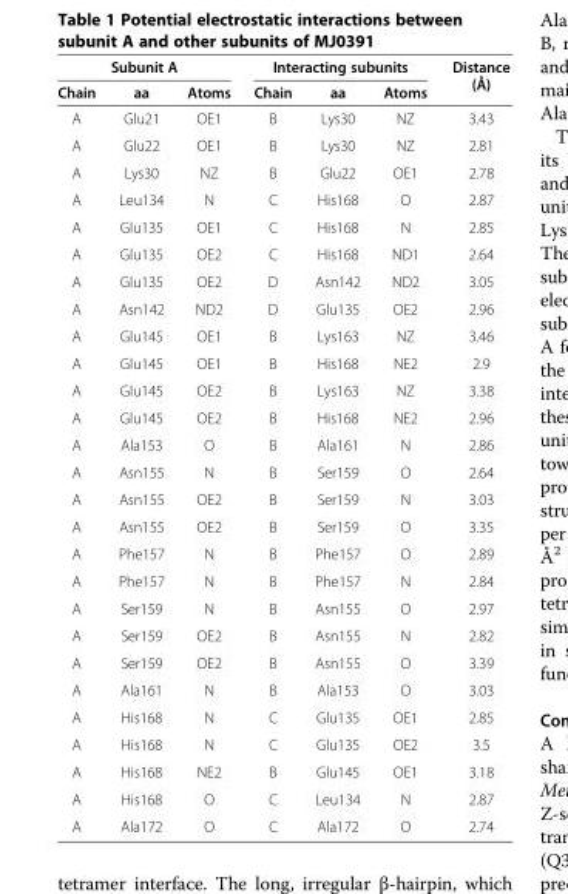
<table><thead><tr><td colspan="3">Subunit A</td><td colspan="3">Interacting subunits</td><td rowspan="2">Distance (Å)</td></tr><tr><td>Chain</td><td>aa</td><td>Atoms</td><td>Chain</td><td>aa</td><td>Atoms</td></tr></thead><tbody><tr><td>A</td><td>Glu21</td><td>OE1</td><td>B</td><td>Lys30</td><td>NZ</td><td>3.43</td></tr><tr><td>A</td><td>Glu22</td><td>OE1</td><td>B</td><td>Lys30</td><td>NZ</td><td>2.81</td></tr><tr><td>A</td><td>Lys30</td><td>NZ</td><td>B</td><td>Glu22</td><td>OE1</td><td>2.78</td></tr><tr><td>A</td><td>Leu134</td><td>N</td><td>C</td><td>His168</td><td>O</td><td>2.87</td></tr><tr><td>A</td><td>Glu135</td><td>OE1</td><td>C</td><td>His168</td><td>N</td><td>2.85</td></tr><tr><td>A</td><td>Glu135</td><td>OE2</td><td>C</td><td>His168</td><td>ND1</td><td>2.64</td></tr><tr><td>A</td><td>Glu135</td><td>OE2</td><td>D</td><td>Asn142</td><td>ND2</td><td>3.05</td></tr><tr><td>A</td><td>Asn142</td><td>ND2</td><td>D</td><td>Glu135</td><td>OE2</td><td>2.96</td></tr><tr><td>A</td><td>Glu145</td><td>OE1</td><td>B</td><td>Lys163</td><td>NZ</td><td>3.46</td></tr><tr><td>A</td><td>Glu145</td><td>OE1</td><td>B</td><td>His168</td><td>NE2</td><td>2.9</td></tr><tr><td>A</td><td>Glu145</td><td>OE2</td><td>B</td><td>Lys163</td><td>NZ</td><td>3.38</td></tr><tr><td>A</td><td>Glu145</td><td>OE2</td><td>B</td><td>His168</td><td>NE2</td><td>2.96</td></tr><tr><td>A</td><td>Ala153</td><td>O</td><td>B</td><td>Ala161</td><td>N</td><td>2.86</td></tr><tr><td>A</td><td>Asn155</td><td>N</td><td>B</td><td>Ser159</td><td>O</td><td>2.64</td></tr><tr><td>A</td><td>Asn155</td><td>OE2</td><td>B</td><td>Ser159</td><td>N</td><td>3.03</td></tr><tr><td>A</td><td>Asn155</td><td>OE2</td><td>B</td><td>Ser159</td><td>O</td><td>3.35</td></tr><tr><td>A</td><td>Phe157</td><td>N</td><td>B</td><td>Phe157</td><td>O</td><td>2.89</td></tr><tr><td>A</td><td>Phe157</td><td>N</td><td>B</td><td>Phe157</td><td>N</td><td>2.84</td></tr><tr><td>A</td><td>Ser159</td><td>N</td><td>B</td><td>Asn155</td><td>O</td><td>2.97</td></tr><tr><td>A</td><td>Ser159</td><td>OE2</td><td>B</td><td>Asn155</td><td>N</td><td>2.82</td></tr><tr><td>A</td><td>Ser159</td><td>OE2</td><td>B</td><td>Asn155</td><td>O</td><td>3.39</td></tr><tr><td>A</td><td>Ala161</td><td>N</td><td>B</td><td>Ala153</td><td>O</td><td>3.03</td></tr><tr><td>A</td><td>His168</td><td>N</td><td>C</td><td>Glu135</td><td>OE1</td><td>2.85</td></tr><tr><td>A</td><td>His168</td><td>N</td><td>C</td><td>Glu135</td><td>OE2</td><td>3.5</td></tr><tr><td>A</td><td>His168</td><td>NE2</td><td>B</td><td>Glu145</td><td>OE1</td><td>3.18</td></tr><tr><td>A</td><td>His168</td><td>O</td><td>C</td><td>Leu134</td><td>N</td><td>2.87</td></tr><tr><td>A</td><td>Ala172</td><td>O</td><td>C</td><td>Ala172</td><td>O</td><td>2.74</td></tr></tbody></table>